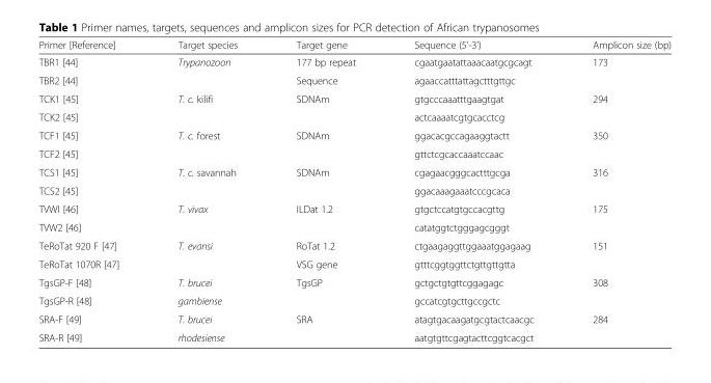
<table><thead><tr><td>Primer [Reference]</td><td>Target species</td><td>Target gene</td><td>Sequence (5&#x27;-3&#x27;)</td><td>Amplicon size (bp)</td></tr></thead><tbody><tr><td>TBR1 [44]</td><td>Trypanozoon</td><td>177 bp repeat</td><td>cgaatgaatattaaacaatgcgcagt</td><td>173</td></tr><tr><td>TBR2 [44]</td><td></td><td>Sequence</td><td>agaaccatttattagctttgttgc</td><td></td></tr><tr><td>TCK1 [45]</td><td>T. c. kilifi</td><td>SDNAm</td><td>gtgcccaaatttgaagtgat</td><td>294</td></tr><tr><td>TCK2 [45]</td><td></td><td></td><td>actcaaaatcgtgcacctcg</td><td></td></tr><tr><td>TCF1 [45]</td><td>T. c. forest</td><td>SDNAm</td><td>ggacacgccagaaggtactt</td><td>350</td></tr><tr><td>TCF2 [45]</td><td></td><td></td><td>gttctcgcaccaaatccaac</td><td></td></tr><tr><td>TCS1 [45]</td><td>T. c. savannah</td><td>SDNAm</td><td>cgagaacgggcactttgcga</td><td>316</td></tr><tr><td>TCS2 [45]</td><td></td><td></td><td>ggacaaagaaatcccgcaca</td><td></td></tr><tr><td>TVWI [46]</td><td>T. vivax</td><td>ILDat 1.2</td><td>gtgctccatgtgccacgttg</td><td>175</td></tr><tr><td>TVW2 [46]</td><td></td><td></td><td>catatggtctgggagcgggt</td><td></td></tr><tr><td>TeRoTat 920 F [47]</td><td>T. evansi</td><td>RoTat 1.2</td><td>ctgaagaggttggaaatggagaag</td><td>151</td></tr><tr><td>TeRoTat 1070R [47]</td><td></td><td>VSG gene</td><td>gtttcggtggttctgttgttgtta</td><td></td></tr><tr><td>TgsGP-F [48]</td><td>T. brucei</td><td>TgsGP</td><td>gctgctgtgttcggagagc</td><td>308</td></tr><tr><td>TgsGP-R [48]</td><td>gambiense</td><td></td><td>gccatcgtgcttgccgctc</td><td></td></tr><tr><td>SRA-F [49]</td><td>T. brucei</td><td>SRA</td><td>atagtgacaagatgcgtactcaacgc</td><td>284</td></tr><tr><td>SRA-R [49]</td><td>rhodesiense</td><td></td><td>aatgtgttcgagtacttcggtcacgct</td><td></td></tr></tbody></table>